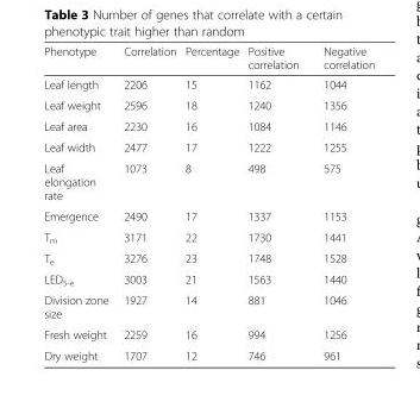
<table><thead><tr><td>Phenotype</td><td>Correlation</td><td>Percentage</td><td>Positive correlation</td><td>Negative correlation</td></tr></thead><tbody><tr><td>Leaf length</td><td>2206</td><td>15</td><td>1162</td><td>1044</td></tr><tr><td>Leaf weight</td><td>2596</td><td>18</td><td>1240</td><td>1356</td></tr><tr><td>Leaf area</td><td>2230</td><td>16</td><td>1084</td><td>1146</td></tr><tr><td>Leaf width</td><td>2477</td><td>17</td><td>1222</td><td>1255</td></tr><tr><td>Leaf elongation rate</td><td>1073</td><td>8</td><td>498</td><td>575</td></tr><tr><td>Emergence</td><td>2490</td><td>17</td><td>1337</td><td>1153</td></tr><tr><td>T<sub>m</sub></td><td>3171</td><td>22</td><td>1730</td><td>1441</td></tr><tr><td>T<sub>e</sub></td><td>3276</td><td>23</td><td>1748</td><td>1528</td></tr><tr><td>LED<sub>5-e</sub></td><td>3003</td><td>21</td><td>1563</td><td>1440</td></tr><tr><td>Division zone size</td><td>1927</td><td>14</td><td>881</td><td>1046</td></tr><tr><td>Fresh weight</td><td>2259</td><td>16</td><td>994</td><td>1256</td></tr><tr><td>Dry weight</td><td>1707</td><td>12</td><td>746</td><td>961</td></tr></tbody></table>